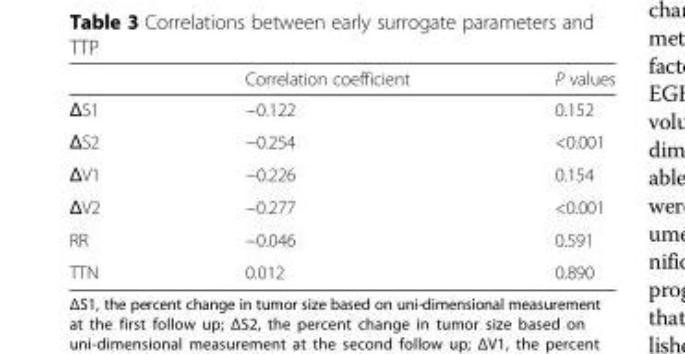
<table><thead><tr><td></td><td>Correlation coefficient</td><td>P values</td></tr></thead><tbody><tr><td>ΔS1</td><td>−0.122</td><td>0.152</td></tr><tr><td>ΔS2</td><td>−0.254</td><td>&lt;0.001</td></tr><tr><td>ΔV1</td><td>−0.226</td><td>0.154</td></tr><tr><td>ΔV2</td><td>−0.277</td><td>&lt;0.001</td></tr><tr><td>RR</td><td>−0.046</td><td>0.591</td></tr><tr><td>TTN</td><td>0.012</td><td>0.890</td></tr></tbody></table>